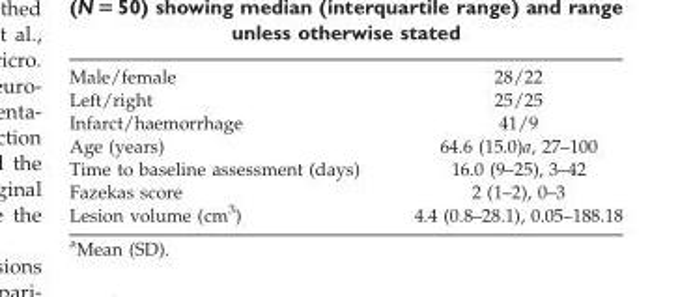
<table><tbody><tr><td>Male/female</td><td>28/22</td></tr><tr><td>Left/right</td><td>25/25</td></tr><tr><td>Infarct/haemorrhage</td><td>41/9</td></tr><tr><td>Age (years)</td><td>64.6 (15.0)a, 27–100</td></tr><tr><td>Time to baseline assessment (days)</td><td>16.0 (9–25), 3–42</td></tr><tr><td>Fazekas score</td><td>2 (1–2), 0–3</td></tr><tr><td>Lesion volume (cm<sup>3</sup>)</td><td>4.4 (0.8–28.1), 0.05–188.18</td></tr></tbody></table>